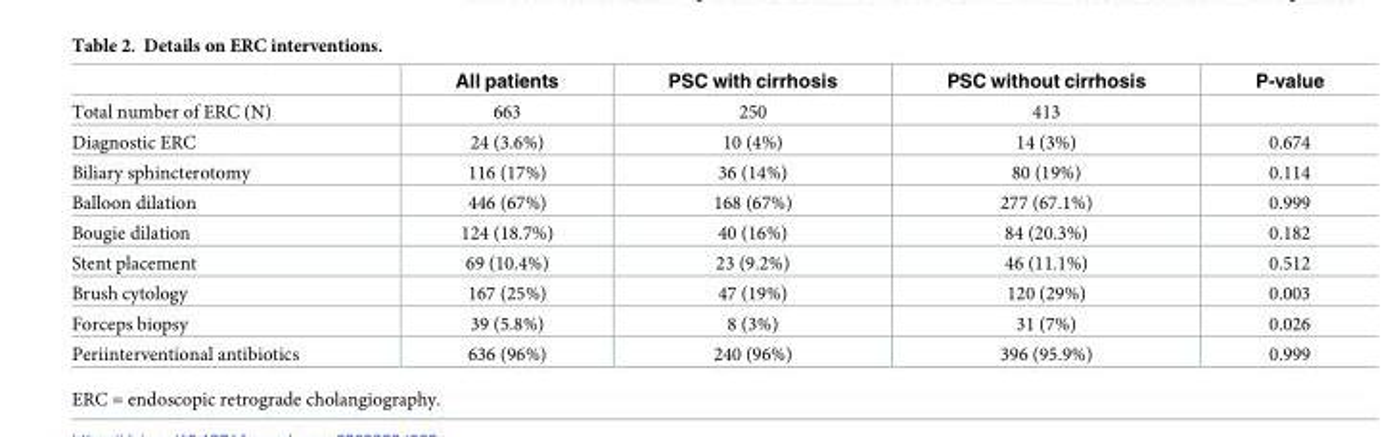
<table><thead><tr><td></td><td>All patients</td><td>PSC with cirrhosis</td><td>PSC without cirrhosis</td><td>P-value</td></tr></thead><tbody><tr><td>Total number of ERC (N)</td><td>663</td><td>250</td><td>413</td><td></td></tr><tr><td>Diagnostic ERC</td><td>24 (3.6%)</td><td>10 (4%)</td><td>14 (3%)</td><td>0.674</td></tr><tr><td>Biliary sphincterotomy</td><td>116 (17%)</td><td>36 (14%)</td><td>80 (19%)</td><td>0.114</td></tr><tr><td>Balloon dilation</td><td>446 (67%)</td><td>168 (67%)</td><td>277 (67.1%)</td><td>0.999</td></tr><tr><td>Bougie dilation</td><td>124 (18.7%)</td><td>40 (16%)</td><td>84 (20.3%)</td><td>0.182</td></tr><tr><td>Stent placement</td><td>69 (10.4%)</td><td>23 (9.2%)</td><td>46 (11.1%)</td><td>0.512</td></tr><tr><td>Brush cytology</td><td>167 (25%)</td><td>47 (19%)</td><td>120 (29%)</td><td>0.003</td></tr><tr><td>Forceps biopsy</td><td>39 (5.8%)</td><td>8 (3%)</td><td>31 (7%)</td><td>0.026</td></tr><tr><td>Periinterventional antibiotics</td><td>636 (96%)</td><td>240 (96%)</td><td>396 (95.9%)</td><td>0.999</td></tr></tbody></table>